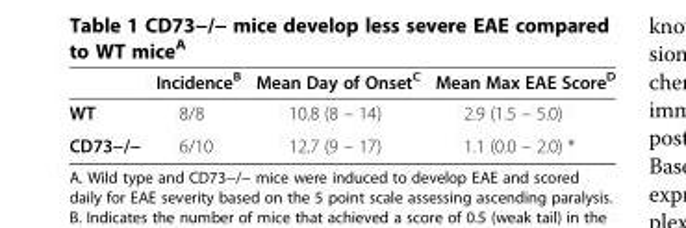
<table><thead><tr><td></td><td>Incidence<sup>B</sup></td><td>Mean Day of Onset<sup>C</sup></td><td>Mean Max EAE Score<sup>D</sup></td></tr></thead><tbody><tr><td>WT</td><td>8/8</td><td>10.8 (8 – 14)</td><td>2.9 (1.5 – 5.0)</td></tr><tr><td>CD73−/−</td><td>6/10</td><td>12.7 (9 – 17)</td><td>1.1 (0.0 – 2.0) *</td></tr></tbody></table>